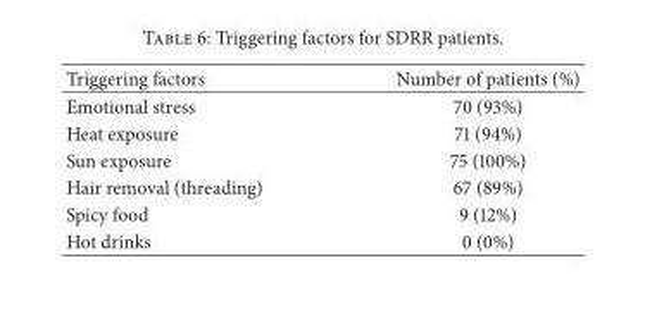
<table><thead><tr><td>Triggering factors</td><td>Number of patients (%)</td></tr></thead><tbody><tr><td>Emotional stress</td><td>70 (93%)</td></tr><tr><td>Heat exposure</td><td>71 (94%)</td></tr><tr><td>Sun exposure</td><td>75 (100%)</td></tr><tr><td>Hair removal (threading)</td><td>67 (89%)</td></tr><tr><td>Spicy food</td><td>9 (12%)</td></tr><tr><td>Hot drinks</td><td>0 (0%)</td></tr></tbody></table>